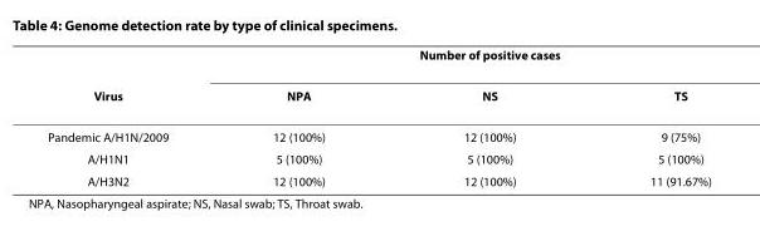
<table><thead><tr><td rowspan="2">Virus</td><td colspan="3">Number of positive cases</td></tr><tr><td>NPA</td><td>NS</td><td>TS</td></tr></thead><tbody><tr><td>Pandemic A/H1N/2009</td><td>12 (100%)</td><td>12 (100%)</td><td>9 (75%)</td></tr><tr><td>A/H1N1</td><td>5 (100%)</td><td>5 (100%)</td><td>5 (100%)</td></tr><tr><td>A/H3N2</td><td>12 (100%)</td><td>12 (100%)</td><td>11 (91.67%)</td></tr></tbody></table>